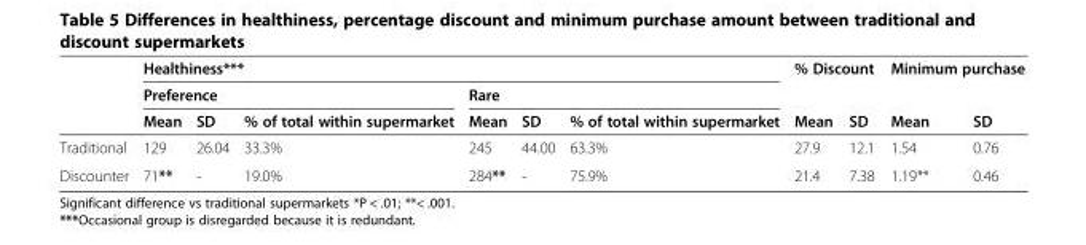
<table><thead><tr><td rowspan="3"></td><td colspan="6">Healthiness***</td><td colspan="2">% Discount</td><td colspan="2">Minimum purchase</td></tr><tr><td colspan="3">Preference</td><td colspan="3">Rare</td><td rowspan="2">Mean</td><td rowspan="2">SD</td><td rowspan="2">Mean</td><td rowspan="2">SD</td></tr><tr><td>Mean</td><td>SD</td><td>% of total within supermarket</td><td>Mean</td><td>SD</td><td>% of total within supermarket</td></tr></thead><tbody><tr><td>Traditional</td><td>129</td><td>26.04</td><td>33.3%</td><td>245</td><td>44.00</td><td>63.3%</td><td>27.9</td><td>12.1</td><td>1.54</td><td>0.76</td></tr><tr><td>Discounter</td><td>71**</td><td>-</td><td>19.0%</td><td>284**</td><td>-</td><td>75.9%</td><td>21.4</td><td>7.38</td><td>1.19**</td><td>0.46</td></tr></tbody></table>